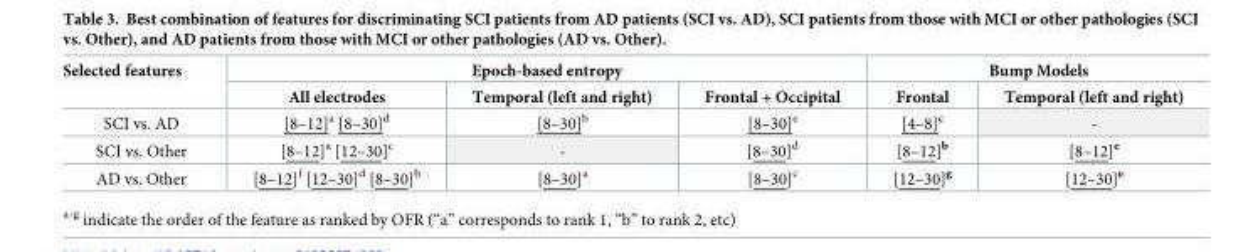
<table><thead><tr><td rowspan="2">Selected features</td><td colspan="3">Epoch-based entropy</td><td colspan="2">Bump Models</td></tr><tr><td>All electrodes</td><td>Temporal (left and right)</td><td>Frontal + Occipital</td><td>Frontal</td><td>Temporal (left and right)</td></tr></thead><tbody><tr><td>SCI vs. AD</td><td>[8–12]<sup>a</sup> [8–30]<sup>d</sup></td><td>[8–30]<sup>b</sup></td><td>[8–30]<sup>e</sup></td><td>[4–8]<sup>c</sup></td><td>-</td></tr><tr><td>SCI vs. Other</td><td>[8–12]<sup>a</sup> [12–30]<sup>c</sup></td><td>-</td><td>[8–30]<sup>d</sup></td><td>[8–12]<sup>b</sup></td><td>[8–12]<sup>e</sup></td></tr><tr><td>AD vs. Other</td><td>[8–12]<sup>f</sup> [12–30]<sup>d</sup> [8–30]<sup>b</sup></td><td>[8–30]<sup>a</sup></td><td>[8–30]<sup>c</sup></td><td>[12–30]<sup>g</sup></td><td>[12–30]<sup>e</sup></td></tr></tbody></table>